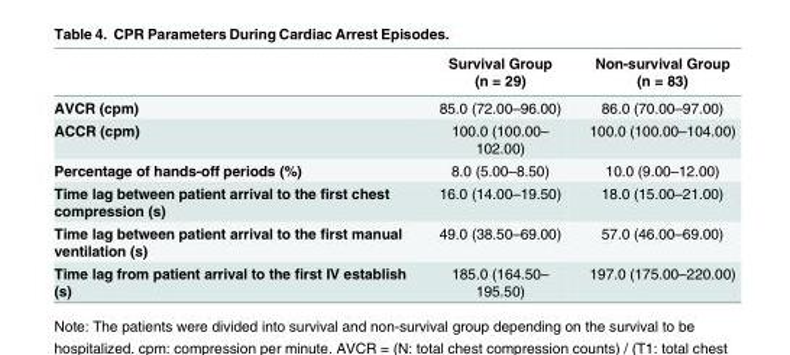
<table><thead><tr><td></td><td>Survival Group (n = 29)</td><td>Non-survival Group (n = 83)</td></tr></thead><tbody><tr><td>AVCR (cpm)</td><td>85.0 (72.00–96.00)</td><td>86.0 (70.00–97.00)</td></tr><tr><td>ACCR (cpm)</td><td>100.0 (100.00– 102.00)</td><td>100.0 (100.00–104.00)</td></tr><tr><td>Percentage of hands-off periods (%)</td><td>8.0 (5.00–8.50)</td><td>10.0 (9.00–12.00)</td></tr><tr><td>Time lag between patient arrival to the first chest compression (s)</td><td>16.0 (14.00–19.50)</td><td>18.0 (15.00–21.00)</td></tr><tr><td>Time lag between patient arrival to the first manual ventilation (s)</td><td>49.0 (38.50–69.00)</td><td>57.0 (46.00–69.00)</td></tr><tr><td>Time lag from patient arrival to the first IV establish (s)</td><td>185.0 (164.50– 195.50)</td><td>197.0 (175.00–220.00)</td></tr></tbody></table>